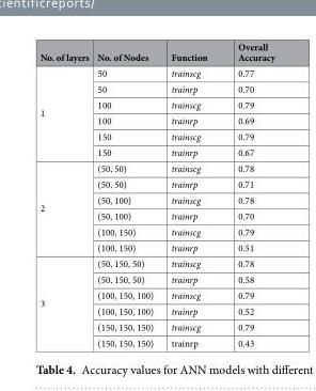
<table><thead><tr><td>No. of layers</td><td>No. of Nodes</td><td>Function</td><td>Overall Accuracy</td></tr></thead><tbody><tr><td rowspan="6">1</td><td>50</td><td>trainscg</td><td>0.77</td></tr><tr><td>50</td><td>trainrp</td><td>0.70</td></tr><tr><td>100</td><td>trainscg</td><td>0.79</td></tr><tr><td>100</td><td>trainrp</td><td>0.69</td></tr><tr><td>150</td><td>trainscg</td><td>0.79</td></tr><tr><td>150</td><td>trainrp</td><td>0.67</td></tr><tr><td rowspan="6">2</td><td>(50, 50)</td><td>trainscg</td><td>0.78</td></tr><tr><td>(50, 50)</td><td>trainrp</td><td>0.71</td></tr><tr><td>(50, 100)</td><td>trainscg</td><td>0.78</td></tr><tr><td>(50, 100)</td><td>trainrp</td><td>0.70</td></tr><tr><td>(100, 150)</td><td>trainscg</td><td>0.79</td></tr><tr><td>(100, 150)</td><td>trainrp</td><td>0.51</td></tr><tr><td rowspan="6">3</td><td>(50, 150, 50)</td><td>trainscg</td><td>0.78</td></tr><tr><td>(50, 150, 50)</td><td>trainrp</td><td>0.58</td></tr><tr><td>(100, 150, 100)</td><td>trainscg</td><td>0.79</td></tr><tr><td>(100, 150, 100)</td><td>trainrp</td><td>0.52</td></tr><tr><td>(150, 150, 150)</td><td>trainscg</td><td>0.79</td></tr><tr><td>(150, 150, 150)</td><td>trainrp</td><td>0.43</td></tr></tbody></table>